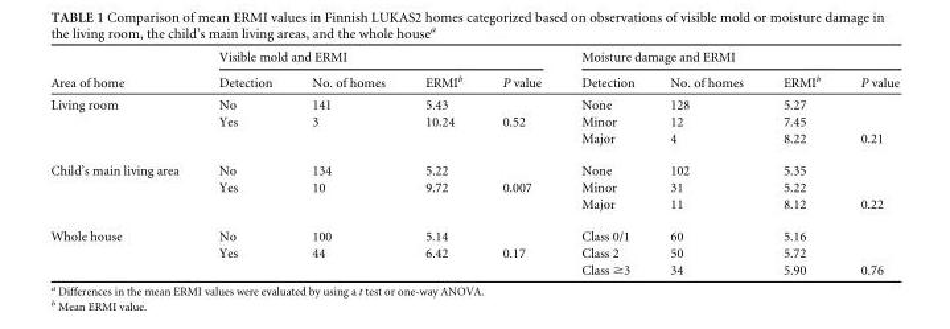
<table><thead><tr><td rowspan="2">Area of home</td><td colspan="4">Visible mold and ERMI</td><td colspan="4">Moisture damage and ERMI</td></tr><tr><td>Detection</td><td>No. of homes</td><td>ERMI<sup>b</sup></td><td>P value</td><td>Detection</td><td>No. of homes</td><td>ERMI<sup>b</sup></td><td>P value</td></tr></thead><tbody><tr><td rowspan="3">Living room</td><td>No</td><td>141</td><td>5.43</td><td></td><td>None</td><td>128</td><td>5.27</td><td></td></tr><tr><td>Yes</td><td>3</td><td>10.24</td><td>0.52</td><td>Minor</td><td>12</td><td>7.45</td><td></td></tr><tr><td></td><td></td><td></td><td></td><td>Major</td><td>4</td><td>8.22</td><td>0.21</td></tr><tr><td rowspan="3">Child’s main living area</td><td>No</td><td>134</td><td>5.22</td><td></td><td>None</td><td>102</td><td>5.35</td><td></td></tr><tr><td>Yes</td><td>10</td><td>9.72</td><td>0.007</td><td>Minor</td><td>31</td><td>5.22</td><td></td></tr><tr><td></td><td></td><td></td><td></td><td>Major</td><td>11</td><td>8.12</td><td>0.22</td></tr><tr><td rowspan="3">Whole house</td><td>No</td><td>100</td><td>5.14</td><td></td><td>Class 0/1</td><td>60</td><td>5.16</td><td></td></tr><tr><td>Yes</td><td>44</td><td>6.42</td><td>0.17</td><td>Class 2</td><td>50</td><td>5.72</td><td></td></tr><tr><td></td><td></td><td></td><td></td><td>Class ≥3</td><td>34</td><td>5.90</td><td>0.76</td></tr></tbody></table>